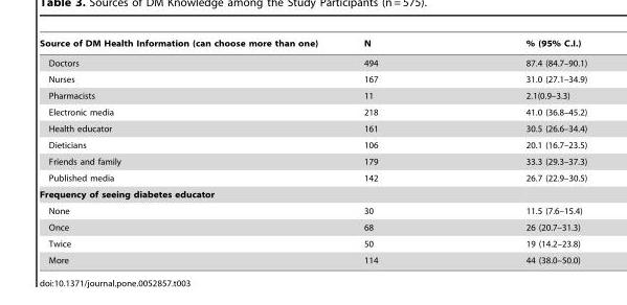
<table><thead><tr><td>Source of DM Health Information (can choose more than one)</td><td>N</td><td>% (95% C.I.)</td></tr></thead><tbody><tr><td>Doctors</td><td>494</td><td>87.4 (84.7–90.1)</td></tr><tr><td>Nurses</td><td>167</td><td>31.0 (27.1–34.9)</td></tr><tr><td>Pharmacists</td><td>11</td><td>2.1(0.9–3.3)</td></tr><tr><td>Electronic media</td><td>218</td><td>41.0 (36.8–45.2)</td></tr><tr><td>Health educator</td><td>161</td><td>30.5 (26.6–34.4)</td></tr><tr><td>Dieticians</td><td>106</td><td>20.1 (16.7–23.5)</td></tr><tr><td>Friends and family</td><td>179</td><td>33.3 (29.3–37.3)</td></tr><tr><td>Published media</td><td>142</td><td>26.7 (22.9–30.5)</td></tr><tr><td colspan="3">Frequency of seeing diabetes educator</td></tr><tr><td>None</td><td>30</td><td>11.5 (7.6–15.4)</td></tr><tr><td>Once</td><td>68</td><td>26 (20.7–31.3)</td></tr><tr><td>Twice</td><td>50</td><td>19 (14.2–23.8)</td></tr><tr><td>More</td><td>114</td><td>44 (38.0–50.0)</td></tr></tbody></table>